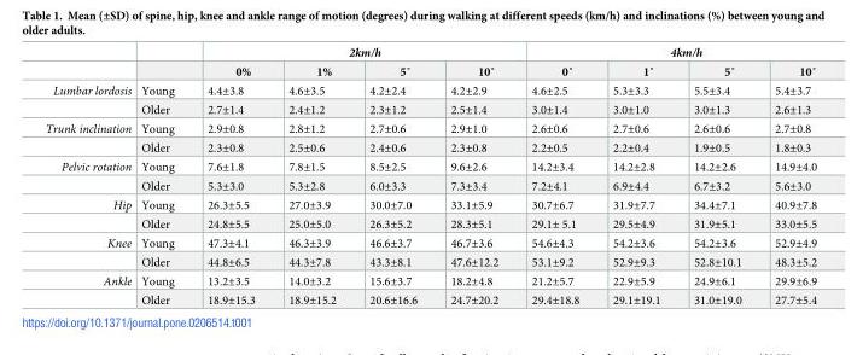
<table><thead><tr><td rowspan="2"></td><td rowspan="2"></td><td colspan="4">2km/h</td><td colspan="4">4km/h</td></tr><tr><td>0%</td><td>1%</td><td>5˚</td><td>10˚</td><td>0˚</td><td>1˚</td><td>5˚</td><td>10˚</td></tr></thead><tbody><tr><td rowspan="2">Lumbar lordosis</td><td>Young</td><td>4.4±3.8</td><td>4.6±3.5</td><td>4.2±2.4</td><td>4.2±2.9</td><td>4.6±2.5</td><td>5.3±3.3</td><td>5.5±3.4</td><td>5.4±3.7</td></tr><tr><td>Older</td><td>2.7±1.4</td><td>2.4±1.2</td><td>2.3±1.2</td><td>2.5±1.4</td><td>3.0±1.4</td><td>3.0±1.0</td><td>3.0±1.3</td><td>2.6±1.3</td></tr><tr><td rowspan="2">Trunk inclination</td><td>Young</td><td>2.9±0.8</td><td>2.8±1.2</td><td>2.7±0.6</td><td>2.9±1.0</td><td>2.6±0.6</td><td>2.7±0.6</td><td>2.6±0.6</td><td>2.7±0.8</td></tr><tr><td>Older</td><td>2.3±0.8</td><td>2.5±0.6</td><td>2.4±0.6</td><td>2.3±0.8</td><td>2.2±0.5</td><td>2.2±0.4</td><td>1.9±0.5</td><td>1.8±0.3</td></tr><tr><td rowspan="2">Pelvic rotation</td><td>Young</td><td>7.6±1.8</td><td>7.8±1.5</td><td>8.5±2.5</td><td>9.6±2.6</td><td>14.2±3.4</td><td>14.2±2.8</td><td>14.2±2.6</td><td>14.9±4.0</td></tr><tr><td>Older</td><td>5.3±3.0</td><td>5.3±2.8</td><td>6.0±3.3</td><td>7.3±3.4</td><td>7.2±4.1</td><td>6.9±4.4</td><td>6.7±3.2</td><td>5.6±3.0</td></tr><tr><td rowspan="2">Hip</td><td>Young</td><td>26.3±5.5</td><td>27.0±3.9</td><td>30.0±7.0</td><td>33.1±5.9</td><td>30.7±6.7</td><td>31.9±7.7</td><td>34.4±7.1</td><td>40.9±7.8</td></tr><tr><td>Older</td><td>24.8±5.5</td><td>25.0±5.0</td><td>26.3±5.2</td><td>28.3±5.1</td><td>29.1± 5.1</td><td>29.5±4.9</td><td>31.9±5.1</td><td>33.0±5.5</td></tr><tr><td rowspan="2">Knee</td><td>Young</td><td>47.3±4.1</td><td>46.3±3.9</td><td>46.6±3.7</td><td>46.7±3.6</td><td>54.6±4.3</td><td>54.2±3.6</td><td>54.2±3.6</td><td>52.9±4.9</td></tr><tr><td>Older</td><td>44.8±6.5</td><td>44.3±7.8</td><td>43.3±8.1</td><td>47.6±12.2</td><td>53.1±9.2</td><td>52.9±9.3</td><td>52.8±10.1</td><td>48.3±5.2</td></tr><tr><td rowspan="2">Ankle</td><td>Young</td><td>13.2±3.5</td><td>14.0±3.2</td><td>15.6±3.7</td><td>18.2±4.8</td><td>21.2±5.7</td><td>22.9±5.9</td><td>24.9±6.1</td><td>29.9±6.9</td></tr><tr><td>Older</td><td>18.9±15.3</td><td>18.9±15.2</td><td>20.6±16.6</td><td>24.7±20.2</td><td>29.4±18.8</td><td>29.1±19.1</td><td>31.0±19.0</td><td>27.7±5.4</td></tr></tbody></table>